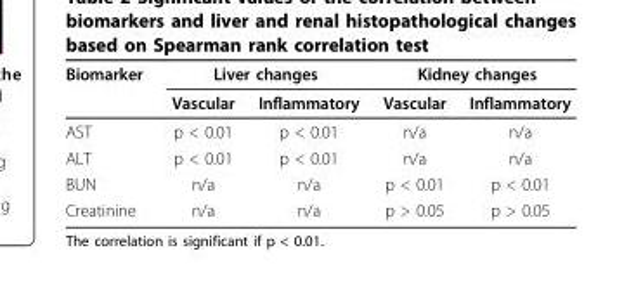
<table><thead><tr><td rowspan="2">Biomarker</td><td colspan="2">Liver changes</td><td colspan="2">Kidney changes</td></tr><tr><td>Vascular</td><td>Inflammatory</td><td>Vascular</td><td>Inflammatory</td></tr></thead><tbody><tr><td>AST</td><td>p &lt; 0.01</td><td>p &lt; 0.01</td><td>n/a</td><td>n/a</td></tr><tr><td>ALT</td><td>p &lt; 0.01</td><td>p &lt; 0.01</td><td>n/a</td><td>n/a</td></tr><tr><td>BUN</td><td>n/a</td><td>n/a</td><td>p &lt; 0.01</td><td>p &lt; 0.01</td></tr><tr><td>Creatinine</td><td>n/a</td><td>n/a</td><td>p &gt; 0.05</td><td>p &gt; 0.05</td></tr></tbody></table>